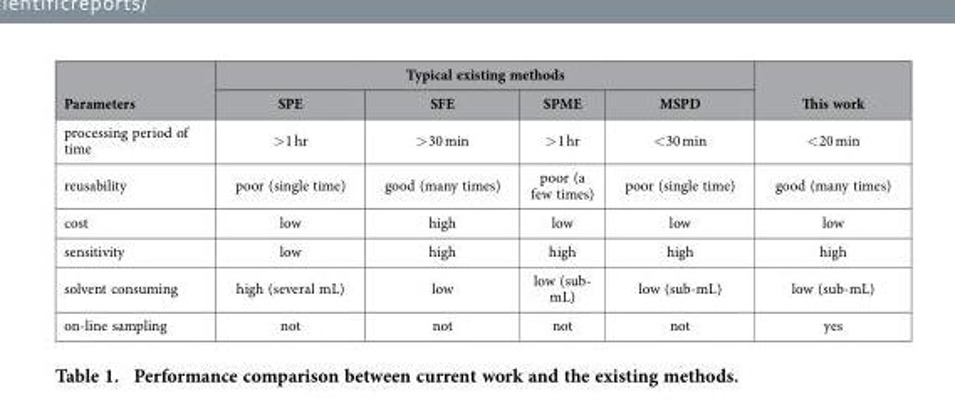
<table><thead><tr><td rowspan="2">Parameters</td><td colspan="4">Typical existing methods</td><td rowspan="2">This work</td></tr><tr><td>SPE</td><td>SFE</td><td>SPME</td><td>MSPD</td></tr></thead><tbody><tr><td>processing period of time</td><td>&gt; 1 hr</td><td>&gt; 30 min</td><td>&gt; 1 hr</td><td>&lt; 30 min</td><td>&lt; 20 min</td></tr><tr><td>reusability</td><td>poor (single time)</td><td>good (many times)</td><td>poor (a few times)</td><td>poor (single time)</td><td>good (many times)</td></tr><tr><td>cost</td><td>low</td><td>high</td><td>low</td><td>low</td><td>low</td></tr><tr><td>sensitivity</td><td>low</td><td>high</td><td>high</td><td>high</td><td>high</td></tr><tr><td>solvent consuming</td><td>high (several mL)</td><td>low</td><td>low (sub- mL)</td><td>low (sub-mL)</td><td>low (sub-mL)</td></tr><tr><td>on-line sampling</td><td>not</td><td>not</td><td>not</td><td>not</td><td>yes</td></tr></tbody></table>